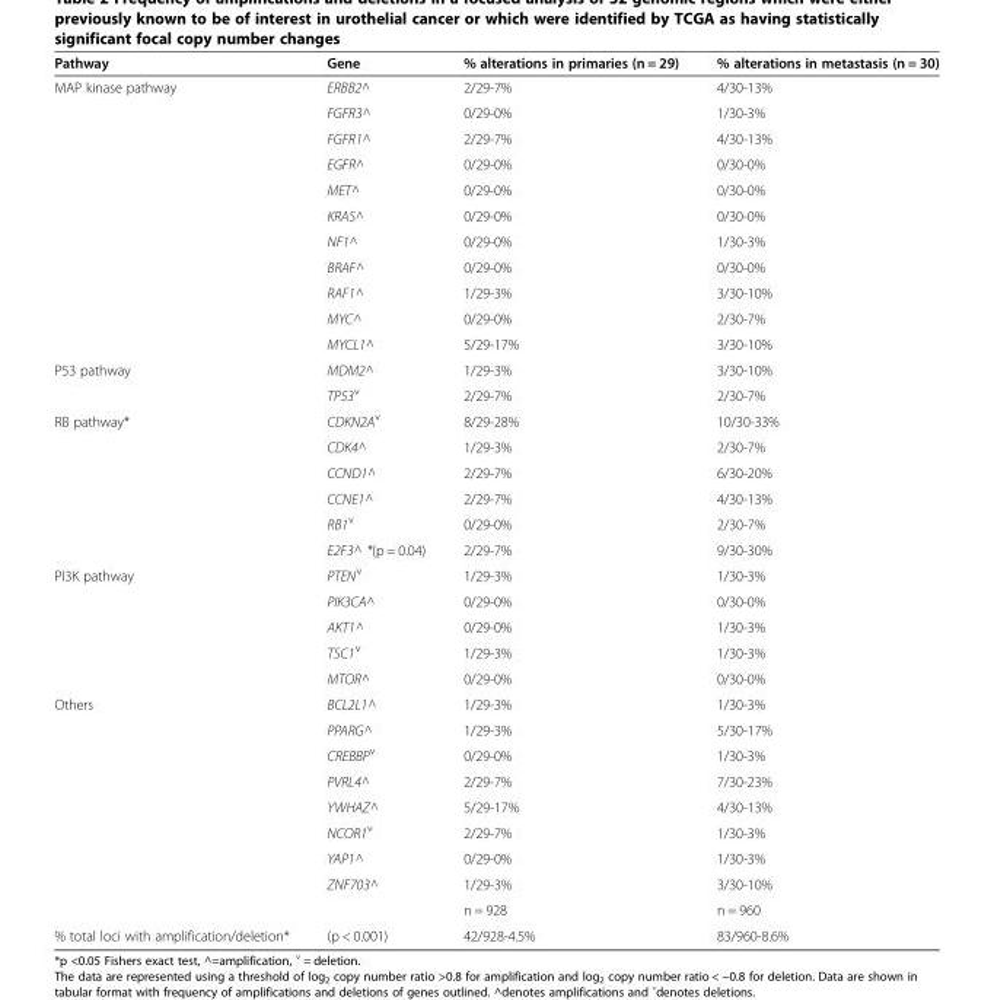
<table><thead><tr><td>Pathway</td><td>Gene</td><td>% alterations in primaries (n = 29)</td><td>% alterations in metastasis (n = 30)</td></tr></thead><tbody><tr><td rowspan="11">MAP kinase pathway</td><td>ERBB2^</td><td>2/29-7%</td><td>4/30-13%</td></tr><tr><td>FGFR3^</td><td>0/29-0%</td><td>1/30-3%</td></tr><tr><td>FGFR1^</td><td>2/29-7%</td><td>4/30-13%</td></tr><tr><td>EGFR^</td><td>0/29-0%</td><td>0/30-0%</td></tr><tr><td>MET^</td><td>0/29-0%</td><td>0/30-0%</td></tr><tr><td>KRAS^</td><td>0/29-0%</td><td>0/30-0%</td></tr><tr><td>NF1^</td><td>0/29-0%</td><td>1/30-3%</td></tr><tr><td>BRAF^</td><td>0/29-0%</td><td>0/30-0%</td></tr><tr><td>RAF1^</td><td>1/29-3%</td><td>3/30-10%</td></tr><tr><td>MYC^</td><td>0/29-0%</td><td>2/30-7%</td></tr><tr><td>MYCL1^</td><td>5/29-17%</td><td>3/30-10%</td></tr><tr><td rowspan="2">P53 pathway</td><td>MDM2^</td><td>1/29-3%</td><td>3/30-10%</td></tr><tr><td>TP53<sup>∨</sup></td><td>2/29-7%</td><td>2/30-7%</td></tr><tr><td rowspan="6">RB pathway*</td><td>CDKN2A<sup>∨</sup></td><td>8/29-28%</td><td>10/30-33%</td></tr><tr><td>CDK4^</td><td>1/29-3%</td><td>2/30-7%</td></tr><tr><td>CCND1^</td><td>2/29-7%</td><td>6/30-20%</td></tr><tr><td>CCNE1^</td><td>2/29-7%</td><td>4/30-13%</td></tr><tr><td>RB1<sup>∨</sup></td><td>0/29-0%</td><td>2/30-7%</td></tr><tr><td>E2F3^ *(p = 0.04)</td><td>2/29-7%</td><td>9/30-30%</td></tr><tr><td rowspan="5">PI3K pathway</td><td>PTEN<sup>∨</sup></td><td>1/29-3%</td><td>1/30-3%</td></tr><tr><td>PIK3CA^</td><td>0/29-0%</td><td>0/30-0%</td></tr><tr><td>AKT1^</td><td>0/29-0%</td><td>1/30-3%</td></tr><tr><td>TSC1<sup>∨</sup></td><td>1/29-3%</td><td>1/30-3%</td></tr><tr><td>MTOR^</td><td>0/29-0%</td><td>0/30-0%</td></tr><tr><td rowspan="9">Others</td><td>BCL2L1^</td><td>1/29-3%</td><td>1/30-3%</td></tr><tr><td>PPARG^</td><td>1/29-3%</td><td>5/30-17%</td></tr><tr><td>CREBBP<sup>∨</sup></td><td>0/29-0%</td><td>1/30-3%</td></tr><tr><td>PVRL4^</td><td>2/29-7%</td><td>7/30-23%</td></tr><tr><td>YWHAZ^</td><td>5/29-17%</td><td>4/30-13%</td></tr><tr><td>NCOR1<sup>∨</sup></td><td>2/29-7%</td><td>1/30-3%</td></tr><tr><td>YAP1^</td><td>0/29-0%</td><td>1/30-3%</td></tr><tr><td>ZNF703^</td><td>1/29-3%</td><td>3/30-10%</td></tr><tr><td></td><td>n = 928</td><td>n = 960</td></tr><tr><td>% total loci with amplification/deletion*</td><td>(p &lt; 0.001)</td><td>42/928-4.5%</td><td>83/960-8.6%</td></tr></tbody></table>